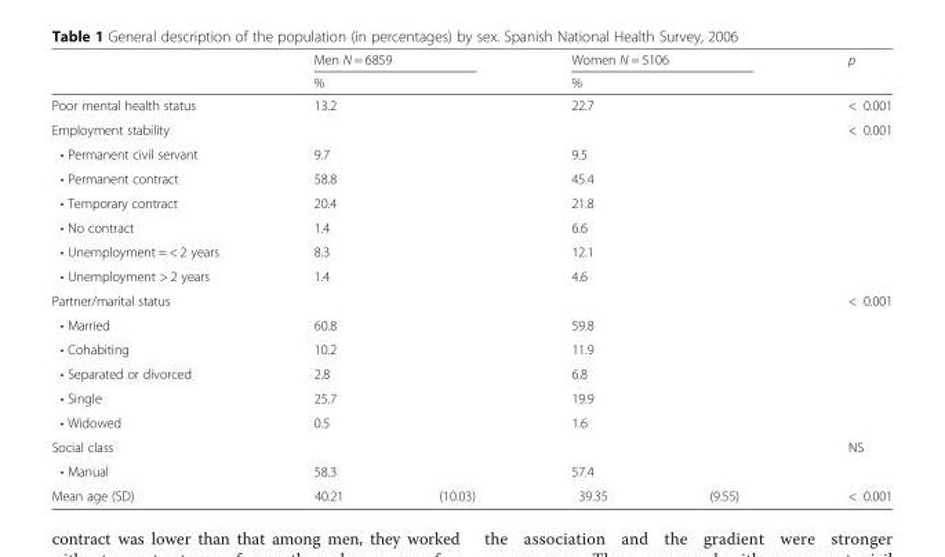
<table><thead><tr><td rowspan="2"></td><td rowspan="2" colspan="2">Men N = 6859 %</td><td rowspan="2" colspan="2">Women N = 5106 %</td><td rowspan="2">p</td></tr><tr></tr></thead><tbody><tr><td>Poor mental health status</td><td colspan="2">13.2</td><td colspan="2">22.7</td><td>&lt; 0.001</td></tr><tr><td>Employment stability</td><td colspan="2"></td><td colspan="2"></td><td>&lt; 0.001</td></tr><tr><td>• Permanent civil servant</td><td colspan="2">9.7</td><td colspan="2">9.5</td><td></td></tr><tr><td>• Permanent contract</td><td colspan="2">58.8</td><td colspan="2">45.4</td><td></td></tr><tr><td>• Temporary contract</td><td colspan="2">20.4</td><td colspan="2">21.8</td><td></td></tr><tr><td>• No contract</td><td colspan="2">1.4</td><td colspan="2">6.6</td><td></td></tr><tr><td>• Unemployment = &lt; 2 years</td><td colspan="2">8.3</td><td colspan="2">12.1</td><td></td></tr><tr><td>• Unemployment &gt; 2 years</td><td colspan="2">1.4</td><td colspan="2">4.6</td><td></td></tr><tr><td>Partner/marital status</td><td colspan="2"></td><td colspan="2"></td><td>&lt; 0.001</td></tr><tr><td>• Married</td><td colspan="2">60.8</td><td colspan="2">59.8</td><td></td></tr><tr><td>• Cohabiting</td><td colspan="2">10.2</td><td colspan="2">11.9</td><td></td></tr><tr><td>• Separated or divorced</td><td colspan="2">2.8</td><td colspan="2">6.8</td><td></td></tr><tr><td>• Single</td><td colspan="2">25.7</td><td colspan="2">19.9</td><td></td></tr><tr><td>• Widowed</td><td colspan="2">0.5</td><td colspan="2">1.6</td><td></td></tr><tr><td>Social class</td><td colspan="2"></td><td colspan="2"></td><td>NS</td></tr><tr><td>• Manual</td><td colspan="2">58.3</td><td colspan="2">57.4</td><td></td></tr><tr><td>Mean age (SD)</td><td>40.21</td><td>(10.03)</td><td>39.35</td><td>(9.55)</td><td>&lt; 0.001</td></tr></tbody></table>